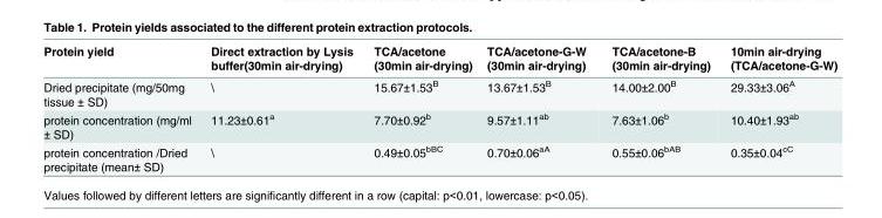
<table><thead><tr><td>Protein yield</td><td>Direct extraction by Lysis buffer(30min air-drying)</td><td>TCA/acetone (30min air-drying)</td><td>TCA/acetone-G-W (30min air-drying)</td><td>TCA/acetone-B (30min air-drying)</td><td>10min air-drying (TCA/acetone-G-W)</td></tr></thead><tbody><tr><td>Dried precipitate (mg/50mg tissue ± SD)</td><td>\</td><td>15.67±1.53<sup>B</sup></td><td>13.67±1.53<sup>B</sup></td><td>14.00±2.00<sup>B</sup></td><td>29.33±3.06<sup>A</sup></td></tr><tr><td>protein concentration (mg/ml ± SD)</td><td>11.23±0.61<sup>a</sup></td><td>7.70±0.92<sup>b</sup></td><td>9.57±1.11<sup>ab</sup></td><td>7.63±1.06<sup>b</sup></td><td>10.40±1.93<sup>ab</sup></td></tr><tr><td>protein concentration /Dried precipitate (mean± SD)</td><td>\</td><td>0.49±0.05<sup>bBC</sup></td><td>0.70±0.06<sup>aA</sup></td><td>0.55±0.06<sup>bAB</sup></td><td>0.35±0.04<sup>cC</sup></td></tr></tbody></table>